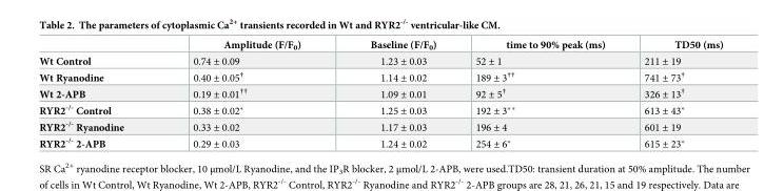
<table><thead><tr><td></td><td>Amplitude (F/F<sub>0</sub>)</td><td>Baseline (F/F<sub>0</sub>)</td><td>time to 90% peak (ms)</td><td>TD50 (ms)</td></tr></thead><tbody><tr><td>Wt Control</td><td>0.74 ± 0.09</td><td>1.23 ± 0.03</td><td>52 ± 1</td><td>211 ± 19</td></tr><tr><td>Wt Ryanodine</td><td>0.40 ± 0.05<sup>†</sup></td><td>1.14 ± 0.02</td><td>189 ± 3<sup>††</sup></td><td>741 ± 73<sup>†</sup></td></tr><tr><td>Wt 2-APB</td><td>0.19 ± 0.01<sup>††</sup></td><td>1.09 ± 0.01</td><td>92 ± 5<sup>†</sup></td><td>326 ± 13<sup>†</sup></td></tr><tr><td>RYR2<sup>-/-</sup> Control</td><td>0.38 ± 0.02*</td><td>1.25 ± 0.03</td><td>192 ± 3**</td><td>613 ± 43*</td></tr><tr><td>RYR2<sup>-/-</sup> Ryanodine</td><td>0.33 ± 0.02</td><td>1.17 ± 0.03</td><td>196 ± 4</td><td>601 ± 19</td></tr><tr><td>RYR2<sup>-/-</sup> 2-APB</td><td>0.29 ± 0.03</td><td>1.24 ± 0.02</td><td>254 ± 6*</td><td>615 ± 23*</td></tr></tbody></table>